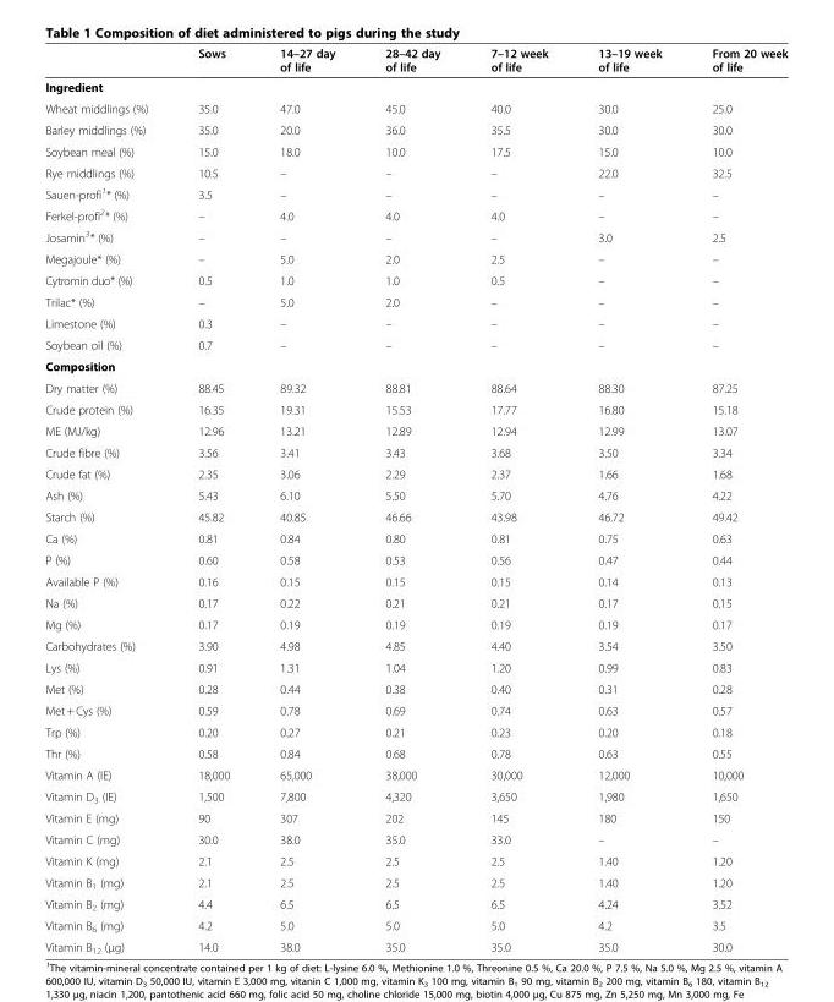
<table><thead><tr><td></td><td>Sows</td><td>14–27 day of life</td><td>28–42 day of life</td><td>7–12 week of life</td><td>13–19 week of life</td><td>From 20 week of life</td></tr></thead><tbody><tr><td colspan="7">Ingredient</td></tr><tr><td>Wheat middlings (%)</td><td>35.0</td><td>47.0</td><td>45.0</td><td>40.0</td><td>30.0</td><td>25.0</td></tr><tr><td>Barley middlings (%)</td><td>35.0</td><td>20.0</td><td>36.0</td><td>35.5</td><td>30.0</td><td>30.0</td></tr><tr><td>Soybean meal (%)</td><td>15.0</td><td>18.0</td><td>10.0</td><td>17.5</td><td>15.0</td><td>10.0</td></tr><tr><td>Rye middlings (%)</td><td>10.5</td><td>–</td><td>–</td><td>–</td><td>22.0</td><td>32.5</td></tr><tr><td>Sauen-profi<sup>1</sup>* (%)</td><td>3.5</td><td>–</td><td>–</td><td>–</td><td>–</td><td>–</td></tr><tr><td>Ferkel-profi<sup>2</sup>* (%)</td><td>–</td><td>4.0</td><td>4.0</td><td>4.0</td><td>–</td><td>–</td></tr><tr><td>Josamin<sup>3</sup>* (%)</td><td>–</td><td>–</td><td>–</td><td>–</td><td>3.0</td><td>2.5</td></tr><tr><td>Megajoule* (%)</td><td>–</td><td>5.0</td><td>2.0</td><td>2.5</td><td>–</td><td>–</td></tr><tr><td>Cytromin duo* (%)</td><td>0.5</td><td>1.0</td><td>1.0</td><td>0.5</td><td>–</td><td>–</td></tr><tr><td>Trilac* (%)</td><td>–</td><td>5.0</td><td>2.0</td><td>–</td><td>–</td><td>–</td></tr><tr><td>Limestone (%)</td><td>0.3</td><td>–</td><td>–</td><td>–</td><td>–</td><td>–</td></tr><tr><td>Soybean oil (%)</td><td>0.7</td><td>–</td><td>–</td><td>–</td><td>–</td><td>–</td></tr><tr><td colspan="7">Composition</td></tr><tr><td>Dry matter (%)</td><td>88.45</td><td>89.32</td><td>88.81</td><td>88.64</td><td>88.30</td><td>87.25</td></tr><tr><td>Crude protein (%)</td><td>16.35</td><td>19.31</td><td>15.53</td><td>17.77</td><td>16.80</td><td>15.18</td></tr><tr><td>ME (MJ/kg)</td><td>12.96</td><td>13.21</td><td>12.89</td><td>12.94</td><td>12.99</td><td>13.07</td></tr><tr><td>Crude fibre (%)</td><td>3.56</td><td>3.41</td><td>3.43</td><td>3.68</td><td>3.50</td><td>3.34</td></tr><tr><td>Crude fat (%)</td><td>2.35</td><td>3.06</td><td>2.29</td><td>2.37</td><td>1.66</td><td>1.68</td></tr><tr><td>Ash (%)</td><td>5.43</td><td>6.10</td><td>5.50</td><td>5.70</td><td>4.76</td><td>4.22</td></tr><tr><td>Starch (%)</td><td>45.82</td><td>40.85</td><td>46.66</td><td>43.98</td><td>46.72</td><td>49.42</td></tr><tr><td>Ca (%)</td><td>0.81</td><td>0.84</td><td>0.80</td><td>0.81</td><td>0.75</td><td>0.63</td></tr><tr><td>P (%)</td><td>0.60</td><td>0.58</td><td>0.53</td><td>0.56</td><td>0.47</td><td>0.44</td></tr><tr><td>Available P (%)</td><td>0.16</td><td>0.15</td><td>0.15</td><td>0.15</td><td>0.14</td><td>0.13</td></tr><tr><td>Na (%)</td><td>0.17</td><td>0.22</td><td>0.21</td><td>0.21</td><td>0.17</td><td>0.15</td></tr><tr><td>Mg (%)</td><td>0.17</td><td>0.19</td><td>0.19</td><td>0.19</td><td>0.19</td><td>0.17</td></tr><tr><td>Carbohydrates (%)</td><td>3.90</td><td>4.98</td><td>4.85</td><td>4.40</td><td>3.54</td><td>3.50</td></tr><tr><td>Lys (%)</td><td>0.91</td><td>1.31</td><td>1.04</td><td>1.20</td><td>0.99</td><td>0.83</td></tr><tr><td>Met (%)</td><td>0.28</td><td>0.44</td><td>0.38</td><td>0.40</td><td>0.31</td><td>0.28</td></tr><tr><td>Met + Cys (%)</td><td>0.59</td><td>0.78</td><td>0.69</td><td>0.74</td><td>0.63</td><td>0.57</td></tr><tr><td>Trp (%)</td><td>0.20</td><td>0.27</td><td>0.21</td><td>0.23</td><td>0.20</td><td>0.18</td></tr><tr><td>Thr (%)</td><td>0.58</td><td>0.84</td><td>0.68</td><td>0.78</td><td>0.63</td><td>0.55</td></tr><tr><td>Vitamin A (IE)</td><td>18,000</td><td>65,000</td><td>38,000</td><td>30,000</td><td>12,000</td><td>10,000</td></tr><tr><td>Vitamin D<sub>3</sub> (IE)</td><td>1,500</td><td>7,800</td><td>4,320</td><td>3,650</td><td>1,980</td><td>1,650</td></tr><tr><td>Vitamin E (mg)</td><td>90</td><td>307</td><td>202</td><td>145</td><td>180</td><td>150</td></tr><tr><td>Vitamin C (mg)</td><td>30.0</td><td>38.0</td><td>35.0</td><td>33.0</td><td>–</td><td>–</td></tr><tr><td>Vitamin K (mg)</td><td>2.1</td><td>2.5</td><td>2.5</td><td>2.5</td><td>1.40</td><td>1.20</td></tr><tr><td>Vitamin B<sub>1</sub> (mg)</td><td>2.1</td><td>2.5</td><td>2.5</td><td>2.5</td><td>1.40</td><td>1.20</td></tr><tr><td>Vitamin B<sub>2</sub> (mg)</td><td>4.4</td><td>6.5</td><td>6.5</td><td>6.5</td><td>4.24</td><td>3.52</td></tr><tr><td>Vitamin B<sub>6</sub> (mg)</td><td>4.2</td><td>5.0</td><td>5.0</td><td>5.0</td><td>4.2</td><td>3.5</td></tr><tr><td>Vitamin B<sub>12</sub> (μg)</td><td>14.0</td><td>38.0</td><td>35.0</td><td>35.0</td><td>35.0</td><td>30.0</td></tr></tbody></table>